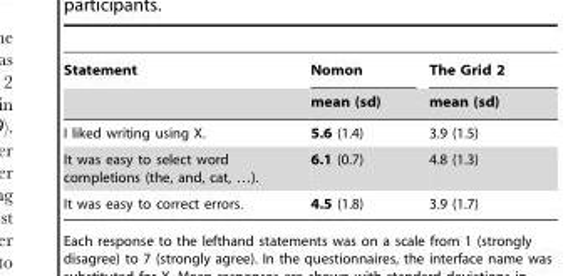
<table><thead><tr><td rowspan="2">Statement</td><td rowspan="2">Nomon mean (sd)</td><td rowspan="2">The Grid 2 mean (sd)</td></tr><tr></tr></thead><tbody><tr><td>I liked writing using X.</td><td>5.6 (1.4)</td><td>3.9 (1.5)</td></tr><tr><td>It was easy to select word completions (the, and, cat, …).</td><td>6.1 (0.7)</td><td>4.8 (1.3)</td></tr><tr><td>It was easy to correct errors.</td><td>4.5 (1.8)</td><td>3.9 (1.7)</td></tr></tbody></table>